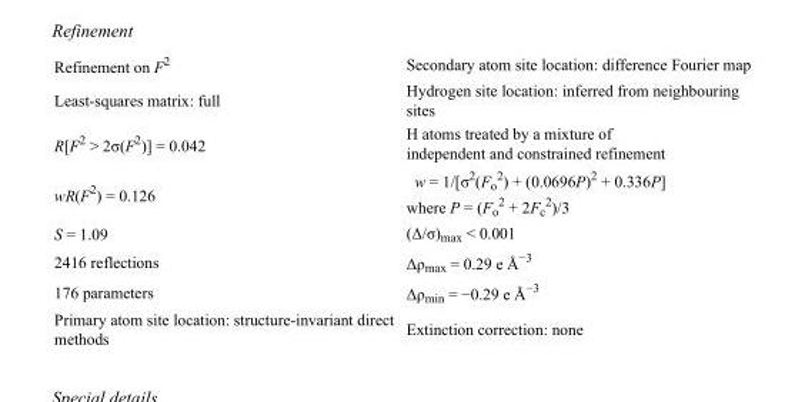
<table><tbody><tr><td>Refinement on F<sup>2</sup></td><td>Secondary atom site location: difference Fourier map</td></tr><tr><td>Least-squares matrix: full</td><td>Hydrogen site location: inferred from neighbouring sites</td></tr><tr><td>R[F<sup>2</sup> &gt; 2σ(F<sup>2</sup>)] = 0.042</td><td>H atoms treated by a mixture of independent and constrained refinement</td></tr><tr><td>wR(F<sup>2</sup>) = 0.126</td><td>w = 1/[σ<sup>2</sup>(F<sub>o</sub> <sup>2</sup>) + (0.0696P)<sup>2</sup> + 0.336P] where P = (F<sub>o</sub> <sup>2</sup> + 2F<sub>c</sub> <sup>2</sup>)/3</td></tr><tr><td>S = 1.09</td><td>(Δ/σ)<sub>max</sub> &lt; 0.001</td></tr><tr><td>2416 reflections</td><td>Δρ<sub>max</sub> = 0.29 e Å<sup>−3</sup></td></tr><tr><td>176 parameters</td><td>Δρ<sub>min</sub> = −0.29 e Å<sup>−3</sup></td></tr><tr><td>Primary atom site location: structure-invariant direct methods</td><td>Extinction correction: none</td></tr></tbody></table>